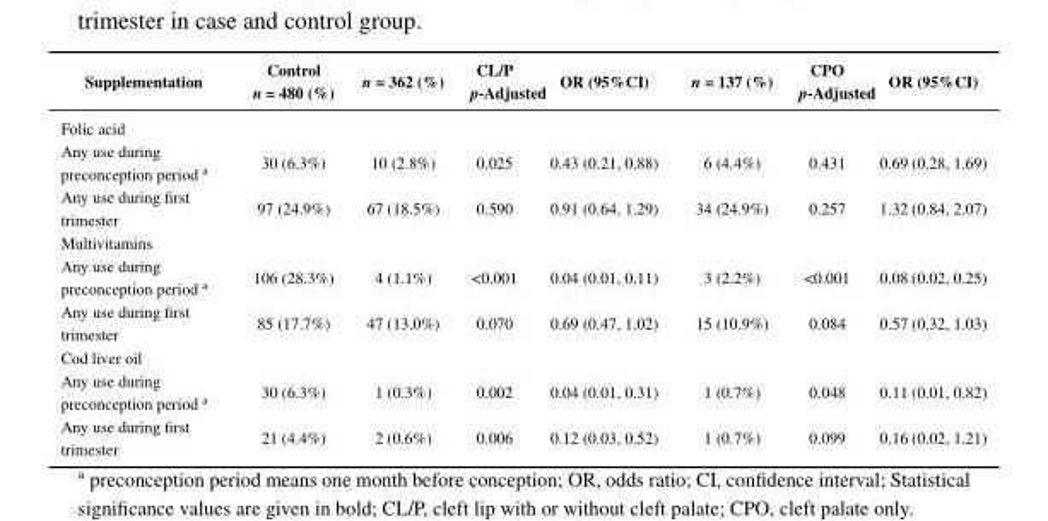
<table><thead><tr><td>Supplementation</td><td>Control n = 480 (%)</td><td>n = 362 (%)</td><td>CL/P p-Adjusted</td><td>OR (95%CI)</td><td>n = 137 (%)</td><td>CPO p-Adjusted</td><td>OR (95%CI)</td></tr></thead><tbody><tr><td colspan="8">Folic acid</td></tr><tr><td>Any use during preconception period <sup>a</sup></td><td>30 (6.3%)</td><td>10 (2.8%)</td><td>0.025</td><td>0.43 (0.21, 0.88)</td><td>6 (4.4%)</td><td>0.431</td><td>0.69 (0.28, 1.69)</td></tr><tr><td>Any use during first trimester</td><td>97 (24.9%)</td><td>67 (18.5%)</td><td>0.590</td><td>0.91 (0.64, 1.29)</td><td>34 (24.9%)</td><td>0.257</td><td>1.32 (0.84, 2.07)</td></tr><tr><td colspan="8">Multivitamins</td></tr><tr><td>Any use during preconception period <sup>a</sup></td><td>106 (28.3%)</td><td>4 (1.1%)</td><td>&lt;0.001</td><td>0.04 (0.01, 0.11)</td><td>3 (2.2%)</td><td>&lt;0.001</td><td>0.08 (0.02, 0.25)</td></tr><tr><td>Any use during first trimester</td><td>85 (17.7%)</td><td>47 (13.0%)</td><td>0.070</td><td>0.69 (0.47, 1.02)</td><td>15 (10.9%)</td><td>0.084</td><td>0.57 (0.32, 1.03)</td></tr><tr><td colspan="8">Cod liver oil</td></tr><tr><td>Any use during preconception period <sup>a</sup></td><td>30 (6.3%)</td><td>1 (0.3%)</td><td>0.002</td><td>0.04 (0.01, 0.31)</td><td>1 (0.7%)</td><td>0.048</td><td>0.11 (0.01, 0.82)</td></tr><tr><td>Any use during first trimester</td><td>21 (4.4%)</td><td>2 (0.6%)</td><td>0.006</td><td>0.12 (0.03, 0.52)</td><td>1 (0.7%)</td><td>0.099</td><td>0.16 (0.02, 1.21)</td></tr></tbody></table>